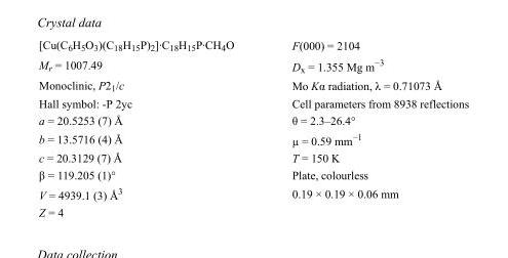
<table><tbody><tr><td>[Cu(C<sub>6</sub>H<sub>5</sub>O<sub>3</sub>)(C<sub>18</sub>H<sub>15</sub>P)<sub>2</sub>]·C<sub>18</sub>H<sub>15</sub>P·CH<sub>4</sub>O</td><td>F(000) = 2104</td></tr><tr><td>M<sub>r</sub> = 1007.49</td><td>D<sub>x</sub> = 1.355 Mg m<sup>−3</sup></td></tr><tr><td>Monoclinic, P2<sub>1</sub>/c</td><td>Mo Kα radiation, λ = 0.71073 Å</td></tr><tr><td>Hall symbol: -P 2yc</td><td>Cell parameters from 8938 reflections</td></tr><tr><td>a = 20.5253 (7) Å</td><td>θ = 2.3–26.4°</td></tr><tr><td>b = 13.5716 (4) Å</td><td>µ = 0.59 mm<sup>−1</sup></td></tr><tr><td>c = 20.3129 (7) Å</td><td>T = 150 K</td></tr><tr><td>β = 119.205 (1)°</td><td>Plate, colourless</td></tr><tr><td>V = 4939.1 (3) Å<sup>3</sup></td><td>0.19 × 0.19 × 0.06 mm</td></tr><tr><td>Z = 4</td><td></td></tr></tbody></table>